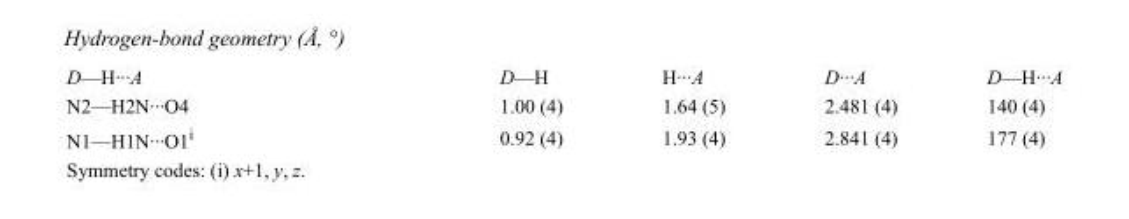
<table><tbody><tr><td>D—H···A</td><td>D—H</td><td>H···A</td><td>D···A</td><td>D—H···A</td></tr><tr><td>N2—H2N···O4</td><td>1.00 (4)</td><td>1.64 (5)</td><td>2.481 (4)</td><td>140 (4)</td></tr><tr><td>N1—H1N···O1<sup>i</sup></td><td>0.92 (4)</td><td>1.93 (4)</td><td>2.841 (4)</td><td>177 (4)</td></tr></tbody></table>